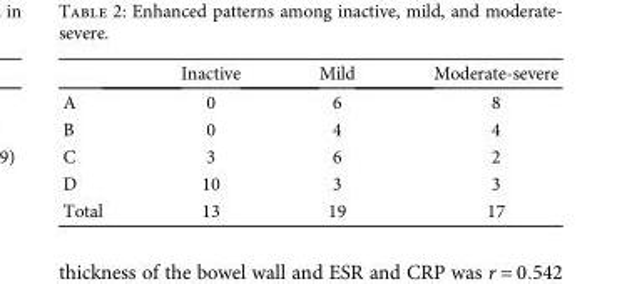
<table><thead><tr><td></td><td>Inactive</td><td>Mild</td><td>Moderate-severe</td></tr></thead><tbody><tr><td>A</td><td>0</td><td>6</td><td>8</td></tr><tr><td>B</td><td>0</td><td>4</td><td>4</td></tr><tr><td>C</td><td>3</td><td>6</td><td>2</td></tr><tr><td>D</td><td>10</td><td>3</td><td>3</td></tr><tr><td>Total</td><td>13</td><td>19</td><td>17</td></tr></tbody></table>